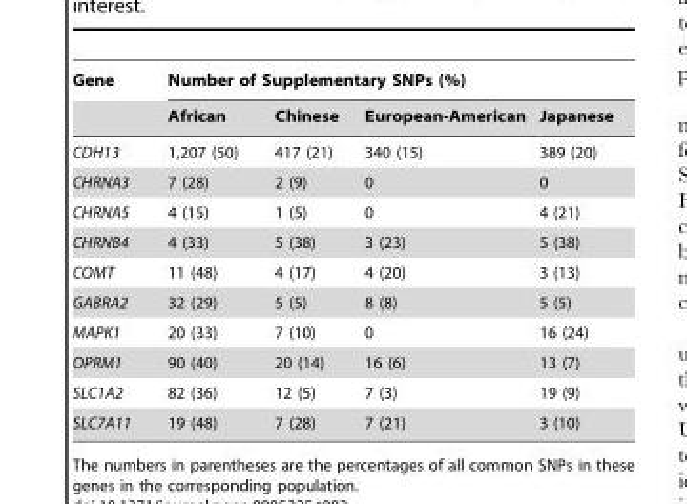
<table><thead><tr><td rowspan="2">Gene</td><td colspan="4">Number of Supplementary SNPs (%)</td></tr><tr><td>African</td><td>Chinese</td><td>European-American</td><td>Japanese</td></tr></thead><tbody><tr><td>CDH13</td><td>1,207 (50)</td><td>417 (21)</td><td>340 (15)</td><td>389 (20)</td></tr><tr><td>CHRNA3</td><td>7 (28)</td><td>2 (9)</td><td>0</td><td>0</td></tr><tr><td>CHRNA5</td><td>4 (15)</td><td>1 (5)</td><td>0</td><td>4 (21)</td></tr><tr><td>CHRNB4</td><td>4 (33)</td><td>5 (38)</td><td>3 (23)</td><td>5 (38)</td></tr><tr><td>COMT</td><td>11 (48)</td><td>4 (17)</td><td>4 (20)</td><td>3 (13)</td></tr><tr><td>GABRA2</td><td>32 (29)</td><td>5 (5)</td><td>8 (8)</td><td>5 (5)</td></tr><tr><td>MAPK1</td><td>20 (33)</td><td>7 (10)</td><td>0</td><td>16 (24)</td></tr><tr><td>OPRM1</td><td>90 (40)</td><td>20 (14)</td><td>16 (6)</td><td>13 (7)</td></tr><tr><td>SLC1A2</td><td>82 (36)</td><td>12 (5)</td><td>7 (3)</td><td>19 (9)</td></tr><tr><td>SLC7A11</td><td>19 (48)</td><td>7 (28)</td><td>7 (21)</td><td>3 (10)</td></tr></tbody></table>